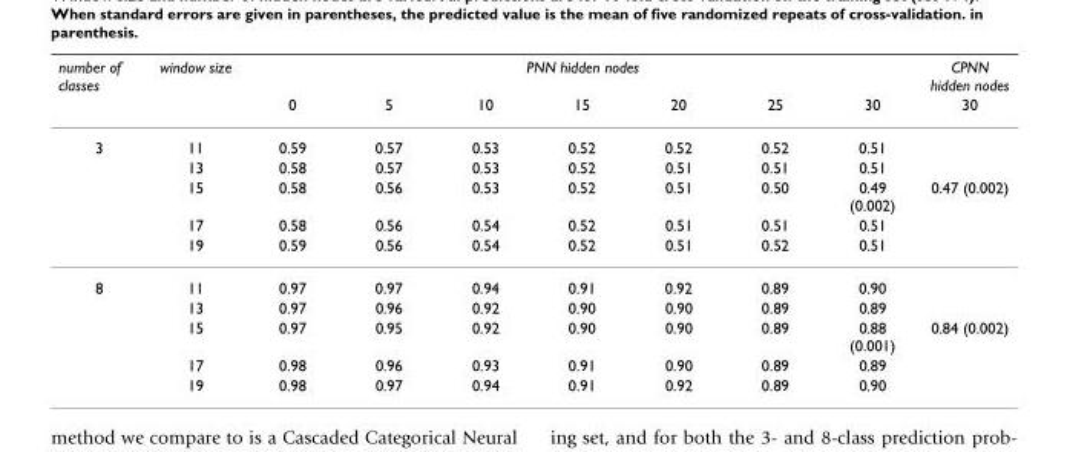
<table><thead><tr><td rowspan="2">number of classes</td><td rowspan="2">window size</td><td colspan="7">PNN hidden nodes</td><td rowspan="2">CPNN hidden nodes 30</td></tr><tr><td>0</td><td>5</td><td>10</td><td>15</td><td>20</td><td>25</td><td>30</td></tr></thead><tbody><tr><td rowspan="5">3</td><td>11</td><td>0.59</td><td>0.57</td><td>0.53</td><td>0.52</td><td>0.52</td><td>0.52</td><td>0.51</td><td></td></tr><tr><td>13</td><td>0.58</td><td>0.57</td><td>0.53</td><td>0.52</td><td>0.51</td><td>0.51</td><td>0.51</td><td></td></tr><tr><td>15</td><td>0.58</td><td>0.56</td><td>0.53</td><td>0.52</td><td>0.51</td><td>0.50</td><td>0.49 (0.002)</td><td>0.47 (0.002)</td></tr><tr><td>17</td><td>0.58</td><td>0.56</td><td>0.54</td><td>0.52</td><td>0.51</td><td>0.51</td><td>0.51</td><td></td></tr><tr><td>19</td><td>0.59</td><td>0.56</td><td>0.54</td><td>0.52</td><td>0.51</td><td>0.52</td><td>0.51</td><td></td></tr><tr><td rowspan="5">8</td><td>11</td><td>0.97</td><td>0.97</td><td>0.94</td><td>0.91</td><td>0.92</td><td>0.89</td><td>0.90</td><td></td></tr><tr><td>13</td><td>0.97</td><td>0.96</td><td>0.92</td><td>0.90</td><td>0.90</td><td>0.89</td><td>0.89</td><td></td></tr><tr><td>15</td><td>0.97</td><td>0.95</td><td>0.92</td><td>0.90</td><td>0.90</td><td>0.89</td><td>0.88 (0.001)</td><td>0.84 (0.002)</td></tr><tr><td>17</td><td>0.98</td><td>0.96</td><td>0.93</td><td>0.91</td><td>0.90</td><td>0.89</td><td>0.89</td><td></td></tr><tr><td>19</td><td>0.98</td><td>0.97</td><td>0.94</td><td>0.91</td><td>0.92</td><td>0.89</td><td>0.90</td><td></td></tr></tbody></table>